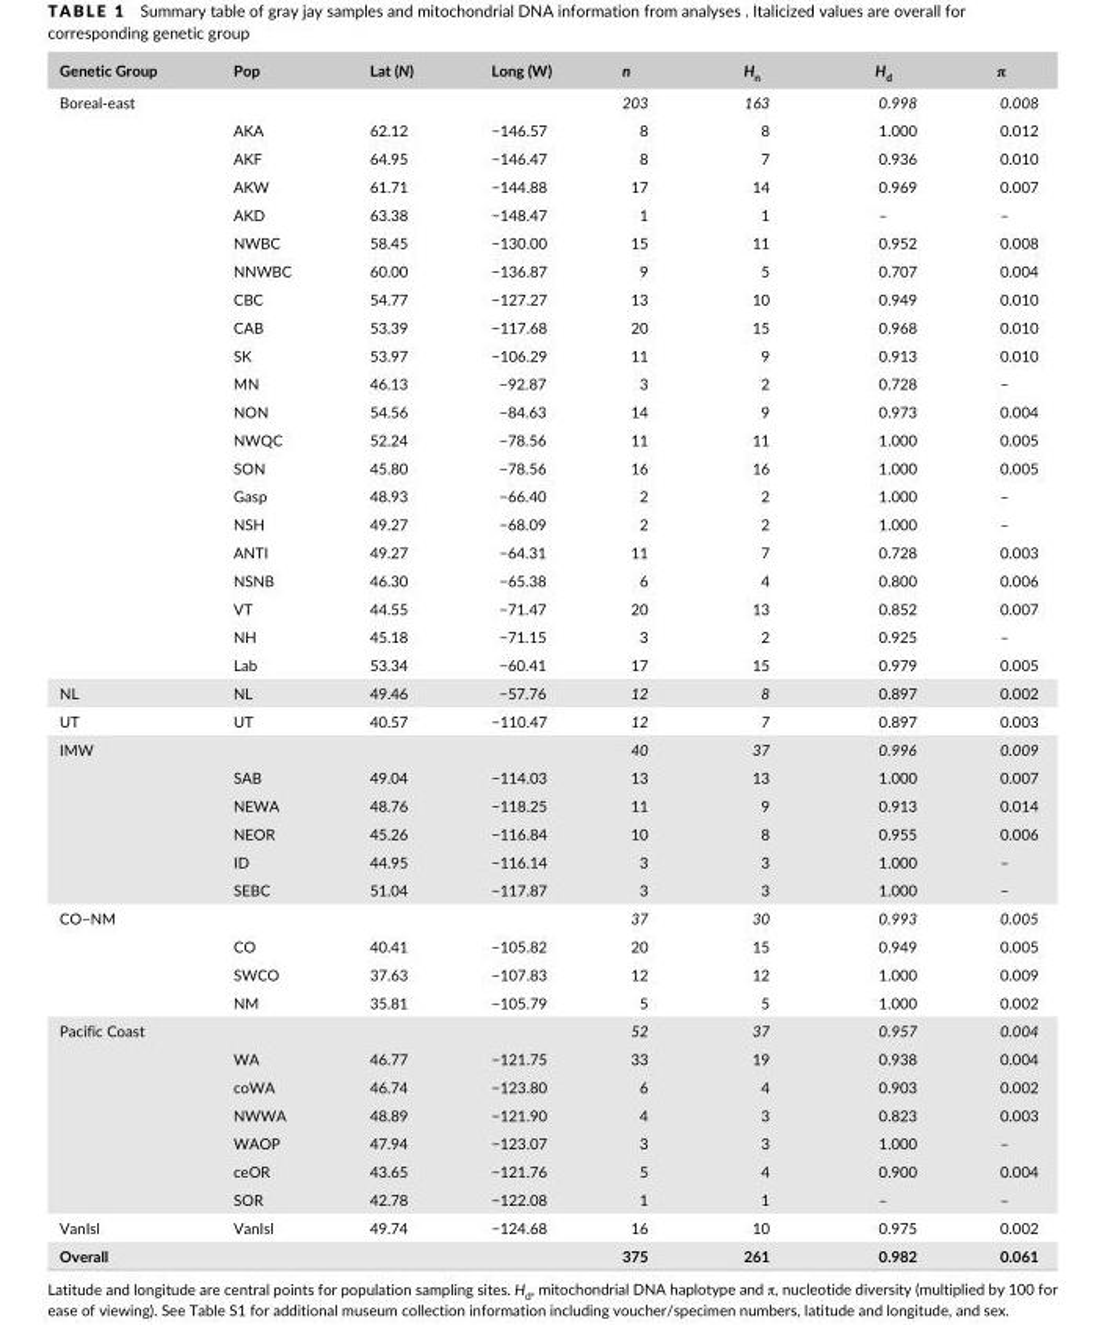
<table><thead><tr><td>Genetic Group</td><td>Pop</td><td>Lat (N)</td><td>Long (W)</td><td>n</td><td>H<sub>n</sub></td><td>H<sub>d</sub></td><td>π</td></tr></thead><tbody><tr><td rowspan="21">Boreal- east</td><td></td><td></td><td></td><td>203</td><td>163</td><td>0.998</td><td>0.008</td></tr><tr><td>AKA</td><td>62.12</td><td>−146.57</td><td>8</td><td>8</td><td>1.000</td><td>0.012</td></tr><tr><td>AKF</td><td>64.95</td><td>−146.47</td><td>8</td><td>7</td><td>0.936</td><td>0.010</td></tr><tr><td>AKW</td><td>61.71</td><td>−144.88</td><td>17</td><td>14</td><td>0.969</td><td>0.007</td></tr><tr><td>AKD</td><td>63.38</td><td>−148.47</td><td>1</td><td>1</td><td>–</td><td>–</td></tr><tr><td>NWBC</td><td>58.45</td><td>−130.00</td><td>15</td><td>11</td><td>0.952</td><td>0.008</td></tr><tr><td>NNWBC</td><td>60.00</td><td>−136.87</td><td>9</td><td>5</td><td>0.707</td><td>0.004</td></tr><tr><td>CBC</td><td>54.77</td><td>−127.27</td><td>13</td><td>10</td><td>0.949</td><td>0.010</td></tr><tr><td>CAB</td><td>53.39</td><td>−117.68</td><td>20</td><td>15</td><td>0.968</td><td>0.010</td></tr><tr><td>SK</td><td>53.97</td><td>−106.29</td><td>11</td><td>9</td><td>0.913</td><td>0.010</td></tr><tr><td>MN</td><td>46.13</td><td>−92.87</td><td>3</td><td>2</td><td>0.728</td><td>–</td></tr><tr><td>NON</td><td>54.56</td><td>−84.63</td><td>14</td><td>9</td><td>0.973</td><td>0.004</td></tr><tr><td>NWQC</td><td>52.24</td><td>−78.56</td><td>11</td><td>11</td><td>1.000</td><td>0.005</td></tr><tr><td>SON</td><td>45.80</td><td>−78.56</td><td>16</td><td>16</td><td>1.000</td><td>0.005</td></tr><tr><td>Gasp</td><td>48.93</td><td>−66.40</td><td>2</td><td>2</td><td>1.000</td><td>–</td></tr><tr><td>NSH</td><td>49.27</td><td>−68.09</td><td>2</td><td>2</td><td>1.000</td><td>–</td></tr><tr><td>ANTI</td><td>49.27</td><td>−64.31</td><td>11</td><td>7</td><td>0.728</td><td>0.003</td></tr><tr><td>NSNB</td><td>46.30</td><td>−65.38</td><td>6</td><td>4</td><td>0.800</td><td>0.006</td></tr><tr><td>VT</td><td>44.55</td><td>−71.47</td><td>20</td><td>13</td><td>0.852</td><td>0.007</td></tr><tr><td>NH</td><td>45.18</td><td>−71.15</td><td>3</td><td>2</td><td>0.925</td><td>–</td></tr><tr><td>Lab</td><td>53.34</td><td>−60.41</td><td>17</td><td>15</td><td>0.979</td><td>0.005</td></tr><tr><td>NL</td><td>NL</td><td>49.46</td><td>−57.76</td><td>12</td><td>8</td><td>0.897</td><td>0.002</td></tr><tr><td>UT</td><td>UT</td><td>40.57</td><td>−110.47</td><td>12</td><td>7</td><td>0.897</td><td>0.003</td></tr><tr><td rowspan="6">IMW</td><td></td><td></td><td></td><td>40</td><td>37</td><td>0.996</td><td>0.009</td></tr><tr><td>SAB</td><td>49.04</td><td>−114.03</td><td>13</td><td>13</td><td>1.000</td><td>0.007</td></tr><tr><td>NEWA</td><td>48.76</td><td>−118.25</td><td>11</td><td>9</td><td>0.913</td><td>0.014</td></tr><tr><td>NEOR</td><td>45.26</td><td>−116.84</td><td>10</td><td>8</td><td>0.955</td><td>0.006</td></tr><tr><td>ID</td><td>44.95</td><td>−116.14</td><td>3</td><td>3</td><td>1.000</td><td>–</td></tr><tr><td>SEBC</td><td>51.04</td><td>−117.87</td><td>3</td><td>3</td><td>1.000</td><td>–</td></tr><tr><td rowspan="4">CO–NM</td><td></td><td></td><td></td><td>37</td><td>30</td><td>0.993</td><td>0.005</td></tr><tr><td>CO</td><td>40.41</td><td>−105.82</td><td>20</td><td>15</td><td>0.949</td><td>0.005</td></tr><tr><td>SWCO</td><td>37.63</td><td>−107.83</td><td>12</td><td>12</td><td>1.000</td><td>0.009</td></tr><tr><td>NM</td><td>35.81</td><td>−105.79</td><td>5</td><td>5</td><td>1.000</td><td>0.002</td></tr><tr><td rowspan="7">Pacific Coast</td><td></td><td></td><td></td><td>52</td><td>37</td><td>0.957</td><td>0.004</td></tr><tr><td>WA</td><td>46.77</td><td>−121.75</td><td>33</td><td>19</td><td>0.938</td><td>0.004</td></tr><tr><td>coWA</td><td>46.74</td><td>−123.80</td><td>6</td><td>4</td><td>0.903</td><td>0.002</td></tr><tr><td>NWWA</td><td>48.89</td><td>−121.90</td><td>4</td><td>3</td><td>0.823</td><td>0.003</td></tr><tr><td>WAOP</td><td>47.94</td><td>−123.07</td><td>3</td><td>3</td><td>1.000</td><td>–</td></tr><tr><td>ceOR</td><td>43.65</td><td>−121.76</td><td>5</td><td>4</td><td>0.900</td><td>0.004</td></tr><tr><td>SOR</td><td>42.78</td><td>−122.08</td><td>1</td><td>1</td><td>–</td><td>–</td></tr><tr><td>VanIsl</td><td>VanIsl</td><td>49.74</td><td>−124.68</td><td>16</td><td>10</td><td>0.975</td><td>0.002</td></tr><tr><td>Overall</td><td></td><td></td><td></td><td>375</td><td>261</td><td>0.982</td><td>0.061</td></tr></tbody></table>